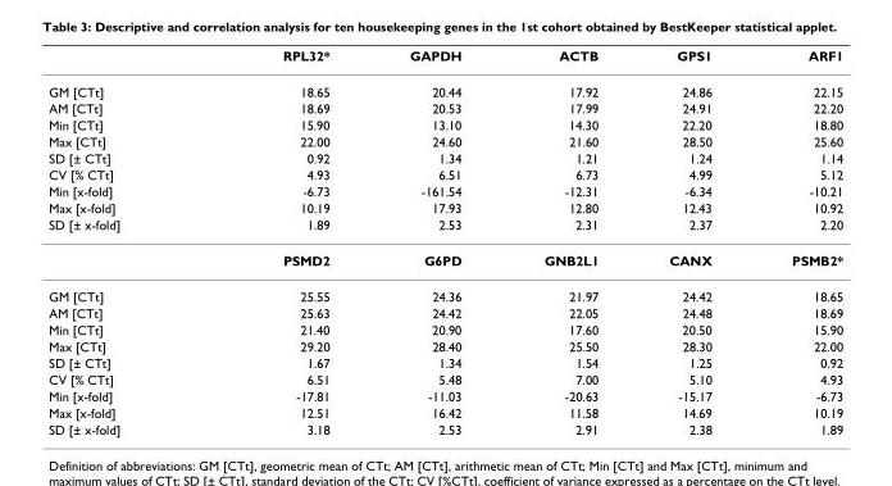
<table><thead><tr><td></td><td>RPL32*</td><td>GAPDH</td><td>ACTB</td><td>GPS1</td><td>ARF1</td></tr></thead><tbody><tr><td>GM [CTt]</td><td>18.65</td><td>20.44</td><td>17.92</td><td>24.86</td><td>22.15</td></tr><tr><td>AM [CTt]</td><td>18.69</td><td>20.53</td><td>17.99</td><td>24.91</td><td>22.20</td></tr><tr><td>Min [CTt]</td><td>15.90</td><td>13.10</td><td>14.30</td><td>22.20</td><td>18.80</td></tr><tr><td>Max [CTt]</td><td>22.00</td><td>24.60</td><td>21.60</td><td>28.50</td><td>25.60</td></tr><tr><td>SD [± CTt]</td><td>0.92</td><td>1.34</td><td>1.21</td><td>1.24</td><td>1.14</td></tr><tr><td>CV [% CTt]</td><td>4.93</td><td>6.51</td><td>6.73</td><td>4.99</td><td>5.12</td></tr><tr><td>Min [x-fold]</td><td>-6.73</td><td>-161.54</td><td>-12.31</td><td>-6.34</td><td>-10.21</td></tr><tr><td>Max [x-fold]</td><td>10.19</td><td>17.93</td><td>12.80</td><td>12.43</td><td>10.92</td></tr><tr><td rowspan="2">SD [± x-fold]</td><td>1.89</td><td>2.53</td><td>2.31</td><td>2.37</td><td>2.20</td></tr><tr><td>PSMD2</td><td>G6PD</td><td>GNB2L1</td><td>CANX</td><td>PSMB2*</td></tr><tr><td>GM [CTt]</td><td>25.55</td><td>24.36</td><td>21.97</td><td>24.42</td><td>18.65</td></tr><tr><td>AM [CTt]</td><td>25.63</td><td>24.42</td><td>22.05</td><td>24.48</td><td>18.69</td></tr><tr><td>Min [CTt]</td><td>21.40</td><td>20.90</td><td>17.60</td><td>20.50</td><td>15.90</td></tr><tr><td>Max [CTt]</td><td>29.20</td><td>28.40</td><td>25.50</td><td>28.30</td><td>22.00</td></tr><tr><td>SD [± CTt]</td><td>1.67</td><td>1.34</td><td>1.54</td><td>1.25</td><td>0.92</td></tr><tr><td>CV [% CTt]</td><td>6.51</td><td>5.48</td><td>7.00</td><td>5.10</td><td>4.93</td></tr><tr><td>Min [x-fold]</td><td>-17.81</td><td>-11.03</td><td>-20.63</td><td>-15.17</td><td>-6.73</td></tr><tr><td>Max [x-fold]</td><td>12.51</td><td>16.42</td><td>11.58</td><td>14.69</td><td>10.19</td></tr><tr><td>SD [± x-fold]</td><td>3.18</td><td>2.53</td><td>2.91</td><td>2.38</td><td>1.89</td></tr></tbody></table>